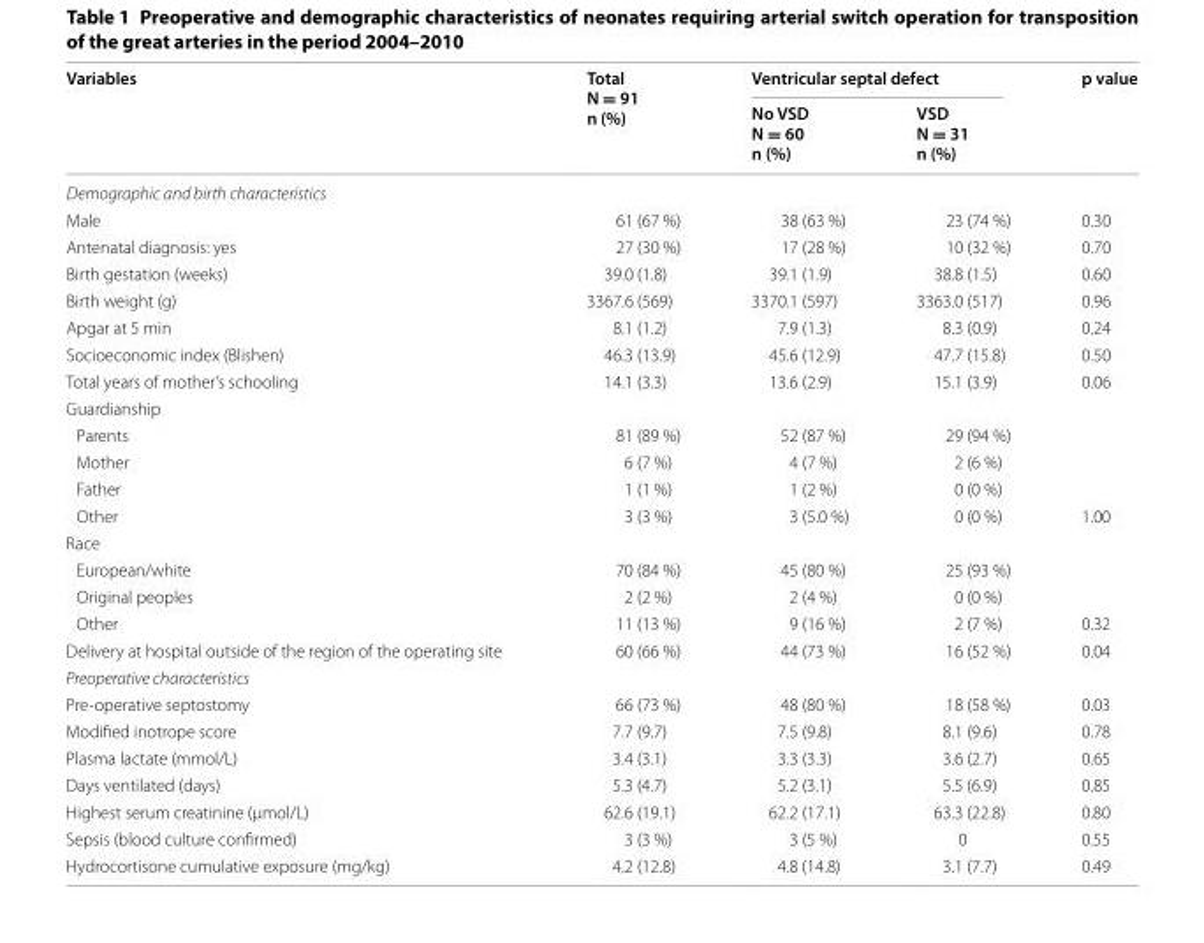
<table><thead><tr><td rowspan="2">Variables</td><td rowspan="2">Total N = 91 n (%)</td><td colspan="2">Ventricular septal defect</td><td rowspan="2">p value</td></tr><tr><td>No VSD N = 60 n (%)</td><td>VSD N = 31 n (%)</td></tr></thead><tbody><tr><td colspan="5">Demographic and birth characteristics</td></tr><tr><td>Male</td><td>61 (67 %)</td><td>38 (63 %)</td><td>23 (74 %)</td><td>0.30</td></tr><tr><td>Antenatal diagnosis: yes</td><td>27 (30 %)</td><td>17 (28 %)</td><td>10 (32 %)</td><td>0.70</td></tr><tr><td>Birth gestation (weeks)</td><td>39.0 (1.8)</td><td>39.1 (1.9)</td><td>38.8 (1.5)</td><td>0.60</td></tr><tr><td>Birth weight (g)</td><td>3367.6 (569)</td><td>3370.1 (597)</td><td>3363.0 (517)</td><td>0.96</td></tr><tr><td>Apgar at 5 min</td><td>8.1 (1.2)</td><td>7.9 (1.3)</td><td>8.3 (0.9)</td><td>0.24</td></tr><tr><td>Socioeconomic index (Blishen)</td><td>46.3 (13.9)</td><td>45.6 (12.9)</td><td>47.7 (15.8)</td><td>0.50</td></tr><tr><td>Total years of mother’s schooling</td><td>14.1 (3.3)</td><td>13.6 (2.9)</td><td>15.1 (3.9)</td><td>0.06</td></tr><tr><td colspan="5">Guardianship</td></tr><tr><td>Parents</td><td>81 (89 %)</td><td>52 (87 %)</td><td>29 (94 %)</td><td></td></tr><tr><td>Mother</td><td>6 (7 %)</td><td>4 (7 %)</td><td>2 (6 %)</td><td></td></tr><tr><td>Father</td><td>1 (1 %)</td><td>1 (2 %)</td><td>0 (0 %)</td><td></td></tr><tr><td>Other</td><td>3 (3 %)</td><td>3 (5.0 %)</td><td>0 (0 %)</td><td>1.00</td></tr><tr><td colspan="5">Race</td></tr><tr><td>European/white</td><td>70 (84 %)</td><td>45 (80 %)</td><td>25 (93 %)</td><td></td></tr><tr><td>Original peoples</td><td>2 (2 %)</td><td>2 (4 %)</td><td>0 (0 %)</td><td></td></tr><tr><td>Other</td><td>11 (13 %)</td><td>9 (16 %)</td><td>2 (7 %)</td><td>0.32</td></tr><tr><td>Delivery at hospital outside of the region of the operating site</td><td>60 (66 %)</td><td>44 (73 %)</td><td>16 (52 %)</td><td>0.04</td></tr><tr><td colspan="5">Preoperative characteristics</td></tr><tr><td>Pre-operative septostomy</td><td>66 (73 %)</td><td>48 (80 %)</td><td>18 (58 %)</td><td>0.03</td></tr><tr><td>Modified inotrope score</td><td>7.7 (9.7)</td><td>7.5 (9.8)</td><td>8.1 (9.6)</td><td>0.78</td></tr><tr><td>Plasma lactate (mmol/L)</td><td>3.4 (3.1)</td><td>3.3 (3.3)</td><td>3.6 (2.7)</td><td>0.65</td></tr><tr><td>Days ventilated (days)</td><td>5.3 (4.7)</td><td>5.2 (3.1)</td><td>5.5 (6.9)</td><td>0.85</td></tr><tr><td>Highest serum creatinine (μmol/L)</td><td>62.6 (19.1)</td><td>62.2 (17.1)</td><td>63.3 (22.8)</td><td>0.80</td></tr><tr><td>Sepsis (blood culture confirmed)</td><td>3 (3 %)</td><td>3 (5 %)</td><td>0</td><td>0.55</td></tr><tr><td>Hydrocortisone cumulative exposure (mg/kg)</td><td>4.2 (12.8)</td><td>4.8 (14.8)</td><td>3.1 (7.7)</td><td>0.49</td></tr></tbody></table>